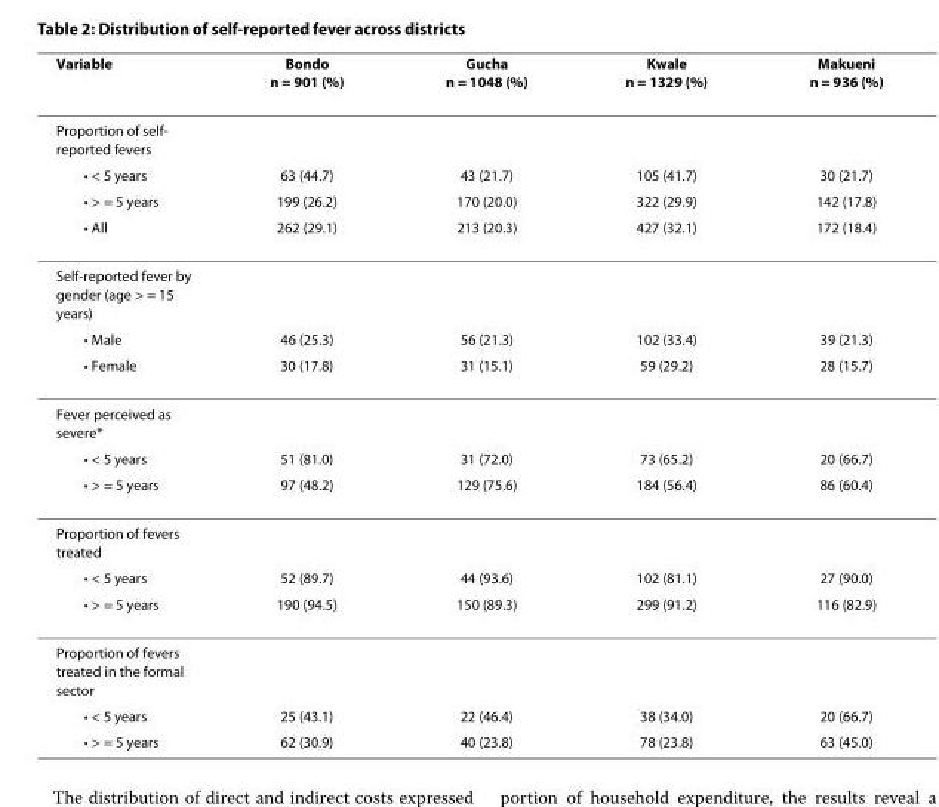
<table><thead><tr><td>Variable</td><td>Bondo n = 901 (%)</td><td>Gucha n = 1048 (%)</td><td>Kwale n = 1329 (%)</td><td>Makueni n = 936 (%)</td></tr></thead><tbody><tr><td colspan="5">Proportion of self- reported fevers</td></tr><tr><td>• &lt; 5 years</td><td>63 (44.7)</td><td>43 (21.7)</td><td>105 (41.7)</td><td>30 (21.7)</td></tr><tr><td>• &gt; = 5 years</td><td>199 (26.2)</td><td>170 (20.0)</td><td>322 (29.9)</td><td>142 (17.8)</td></tr><tr><td>• All</td><td>262 (29.1)</td><td>213 (20.3)</td><td>427 (32.1)</td><td>172 (18.4)</td></tr><tr><td colspan="5">Self-reported fever by gender (age &gt; = 15 years)</td></tr><tr><td>• Male</td><td>46 (25.3)</td><td>56 (21.3)</td><td>102 (33.4)</td><td>39 (21.3)</td></tr><tr><td>• Female</td><td>30 (17.8)</td><td>31 (15.1)</td><td>59 (29.2)</td><td>28 (15.7)</td></tr><tr><td colspan="5">Fever perceived as severe*</td></tr><tr><td>• &lt; 5 years</td><td>51 (81.0)</td><td>31 (72.0)</td><td>73 (65.2)</td><td>20 (66.7)</td></tr><tr><td>• &gt; = 5 years</td><td>97 (48.2)</td><td>129 (75.6)</td><td>184 (56.4)</td><td>86 (60.4)</td></tr><tr><td colspan="5">Proportion of fevers treated</td></tr><tr><td>• &lt; 5 years</td><td>52 (89.7)</td><td>44 (93.6)</td><td>102 (81.1)</td><td>27 (90.0)</td></tr><tr><td>• &gt; = 5 years</td><td>190 (94.5)</td><td>150 (89.3)</td><td>299 (91.2)</td><td>116 (82.9)</td></tr><tr><td colspan="5">Proportion of fevers treated in the formal sector</td></tr><tr><td>• &lt; 5 years</td><td>25 (43.1)</td><td>22 (46.4)</td><td>38 (34.0)</td><td>20 (66.7)</td></tr><tr><td>• &gt; = 5 years</td><td>62 (30.9)</td><td>40 (23.8)</td><td>78 (23.8)</td><td>63 (45.0)</td></tr></tbody></table>